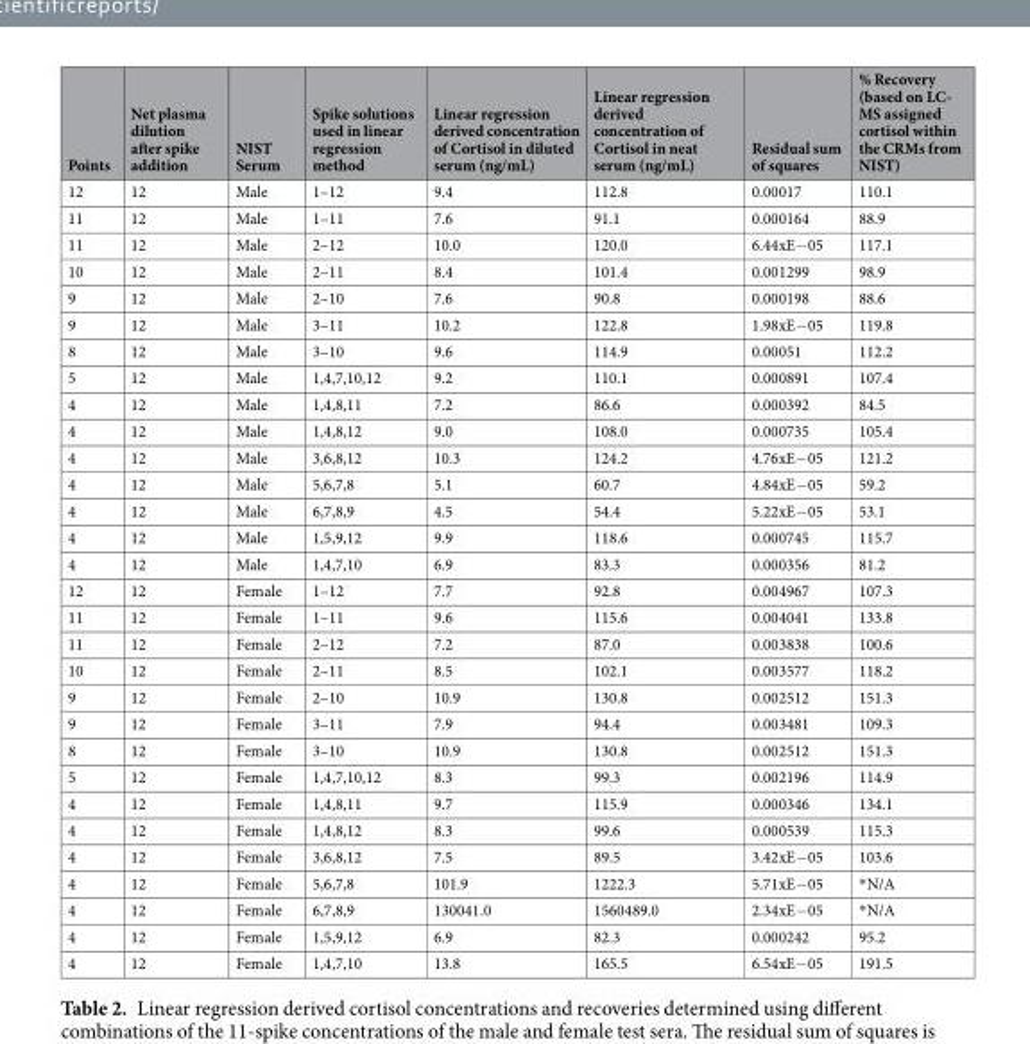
<table><thead><tr><td>Points</td><td>Net plasma dilution after spike addition</td><td>NIST Serum</td><td>Spike solutions used in linear regression method</td><td>Linear regression derived concentration of Cortisol in diluted serum (ng/mL)</td><td>Linear regression derived concentration of Cortisol in neat serum (ng/mL)</td><td>Residual sum of squares</td><td>% Recovery (based on LC- MS assigned cortisol within the CRMs from NIST)</td></tr></thead><tbody><tr><td>12</td><td>12</td><td>Male</td><td>1–12</td><td>9.4</td><td>112.8</td><td>0.00017</td><td>110.1</td></tr><tr><td>11</td><td>12</td><td>Male</td><td>1–11</td><td>7.6</td><td>91.1</td><td>0.000164</td><td>88.9</td></tr><tr><td>11</td><td>12</td><td>Male</td><td>2–12</td><td>10.0</td><td>120.0</td><td>6.44xE−05</td><td>117.1</td></tr><tr><td>10</td><td>12</td><td>Male</td><td>2–11</td><td>8.4</td><td>101.4</td><td>0.001299</td><td>98.9</td></tr><tr><td>9</td><td>12</td><td>Male</td><td>2–10</td><td>7.6</td><td>90.8</td><td>0.000198</td><td>88.6</td></tr><tr><td>9</td><td>12</td><td>Male</td><td>3–11</td><td>10.2</td><td>122.8</td><td>1.98xE−05</td><td>119.8</td></tr><tr><td>8</td><td>12</td><td>Male</td><td>3–10</td><td>9.6</td><td>114.9</td><td>0.00051</td><td>112.2</td></tr><tr><td>5</td><td>12</td><td>Male</td><td>1,4,7,10,12</td><td>9.2</td><td>110.1</td><td>0.000891</td><td>107.4</td></tr><tr><td>4</td><td>12</td><td>Male</td><td>1,4,8,11</td><td>7.2</td><td>86.6</td><td>0.000392</td><td>84.5</td></tr><tr><td>4</td><td>12</td><td>Male</td><td>1,4,8,12</td><td>9.0</td><td>108.0</td><td>0.000735</td><td>105.4</td></tr><tr><td>4</td><td>12</td><td>Male</td><td>3,6,8,12</td><td>10.3</td><td>124.2</td><td>4.76xE−05</td><td>121.2</td></tr><tr><td>4</td><td>12</td><td>Male</td><td>5,6,7,8</td><td>5.1</td><td>60.7</td><td>4.84xE−05</td><td>59.2</td></tr><tr><td>4</td><td>12</td><td>Male</td><td>6,7,8,9</td><td>4.5</td><td>54.4</td><td>5.22xE−05</td><td>53.1</td></tr><tr><td>4</td><td>12</td><td>Male</td><td>1,5,9,12</td><td>9.9</td><td>118.6</td><td>0.000745</td><td>115.7</td></tr><tr><td>4</td><td>12</td><td>Male</td><td>1,4,7,10</td><td>6.9</td><td>83.3</td><td>0.000356</td><td>81.2</td></tr><tr><td>12</td><td>12</td><td>Female</td><td>1–12</td><td>7.7</td><td>92.8</td><td>0.004967</td><td>107.3</td></tr><tr><td>11</td><td>12</td><td>Female</td><td>1–11</td><td>9.6</td><td>115.6</td><td>0.004041</td><td>133.8</td></tr><tr><td>11</td><td>12</td><td>Female</td><td>2–12</td><td>7.2</td><td>87.0</td><td>0.003838</td><td>100.6</td></tr><tr><td>10</td><td>12</td><td>Female</td><td>2–11</td><td>8.5</td><td>102.1</td><td>0.003577</td><td>118.2</td></tr><tr><td>9</td><td>12</td><td>Female</td><td>2–10</td><td>10.9</td><td>130.8</td><td>0.002512</td><td>151.3</td></tr><tr><td>9</td><td>12</td><td>Female</td><td>3–11</td><td>7.9</td><td>94.4</td><td>0.003481</td><td>109.3</td></tr><tr><td>8</td><td>12</td><td>Female</td><td>3–10</td><td>10.9</td><td>130.8</td><td>0.002512</td><td>151.3</td></tr><tr><td>5</td><td>12</td><td>Female</td><td>1,4,7,10,12</td><td>8.3</td><td>99.3</td><td>0.002196</td><td>114.9</td></tr><tr><td>4</td><td>12</td><td>Female</td><td>1,4,8,11</td><td>9.7</td><td>115.9</td><td>0.000346</td><td>134.1</td></tr><tr><td>4</td><td>12</td><td>Female</td><td>1,4,8,12</td><td>8.3</td><td>99.6</td><td>0.000539</td><td>115.3</td></tr><tr><td>4</td><td>12</td><td>Female</td><td>3,6,8,12</td><td>7.5</td><td>89.5</td><td>3.42xE−05</td><td>103.6</td></tr><tr><td>4</td><td>12</td><td>Female</td><td>5,6,7,8</td><td>101.9</td><td>1222.3</td><td>5.71xE−05</td><td>*N/A</td></tr><tr><td>4</td><td>12</td><td>Female</td><td>6,7,8,9</td><td>130041.0</td><td>1560489.0</td><td>2.34xE−05</td><td>*N/A</td></tr><tr><td>4</td><td>12</td><td>Female</td><td>1,5,9,12</td><td>6.9</td><td>82.3</td><td>0.000242</td><td>95.2</td></tr><tr><td>4</td><td>12</td><td>Female</td><td>1,4,7,10</td><td>13.8</td><td>165.5</td><td>6.54xE−05</td><td>191.5</td></tr></tbody></table>